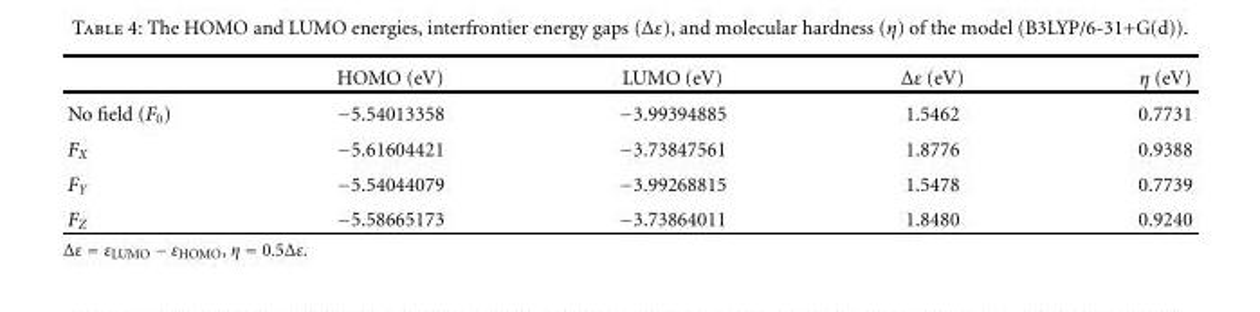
<table><thead><tr><td></td><td>HOMO (eV)</td><td>LUMO (eV)</td><td>Δε (eV)</td><td>η (eV)</td></tr></thead><tbody><tr><td>No field (F<sub>0</sub>)</td><td>−5.54013358</td><td>−3.99394885</td><td>1.5462</td><td>0.7731</td></tr><tr><td>F<sub>X</sub></td><td>−5.61604421</td><td>−3.73847561</td><td>1.8776</td><td>0.9388</td></tr><tr><td>F<sub>Y</sub></td><td>−5.54044079</td><td>−3.99268815</td><td>1.5478</td><td>0.7739</td></tr><tr><td>F<sub>Z</sub></td><td>−5.58665173</td><td>−3.73864011</td><td>1.8480</td><td>0.9240</td></tr></tbody></table>